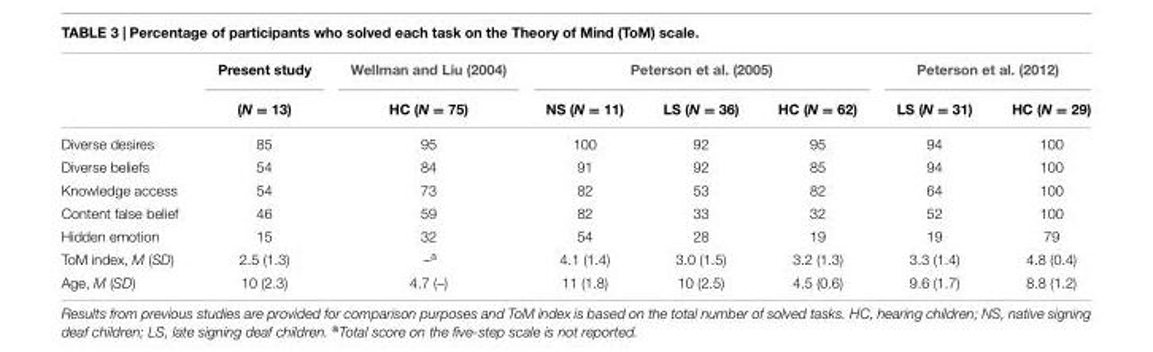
<table><thead><tr><td rowspan="2"></td><td rowspan="2">Present study (N = 13)</td><td rowspan="2">Wellman and Liu (2004) HC (N = 75)</td><td colspan="3">Peterson et al. (2005)</td><td colspan="2">Peterson et al. (2012)</td></tr><tr><td>NS (N = 11)</td><td>LS (N = 36)</td><td>HC (N = 62)</td><td>LS (N = 31)</td><td>HC (N = 29)</td></tr></thead><tbody><tr><td>Diverse desires</td><td>85</td><td>95</td><td>100</td><td>92</td><td>95</td><td>94</td><td>100</td></tr><tr><td>Diverse beliefs</td><td>54</td><td>84</td><td>91</td><td>92</td><td>85</td><td>94</td><td>100</td></tr><tr><td>Knowledge access</td><td>54</td><td>73</td><td>82</td><td>53</td><td>82</td><td>64</td><td>100</td></tr><tr><td>Content false belief</td><td>46</td><td>59</td><td>82</td><td>33</td><td>32</td><td>52</td><td>100</td></tr><tr><td>Hidden emotion</td><td>15</td><td>32</td><td>54</td><td>28</td><td>19</td><td>19</td><td>79</td></tr><tr><td>ToM index, M (SD)</td><td>2.5 (1.3)</td><td>–<sup>a</sup></td><td>4.1 (1.4)</td><td>3.0 (1.5)</td><td>3.2 (1.3)</td><td>3.3 (1.4)</td><td>4.8 (0.4)</td></tr><tr><td>Age, M (SD)</td><td>10 (2.3)</td><td>4.7 (–)</td><td>11 (1.8)</td><td>10 (2.5)</td><td>4.5 (0.6)</td><td>9.6 (1.7)</td><td>8.8 (1.2)</td></tr></tbody></table>